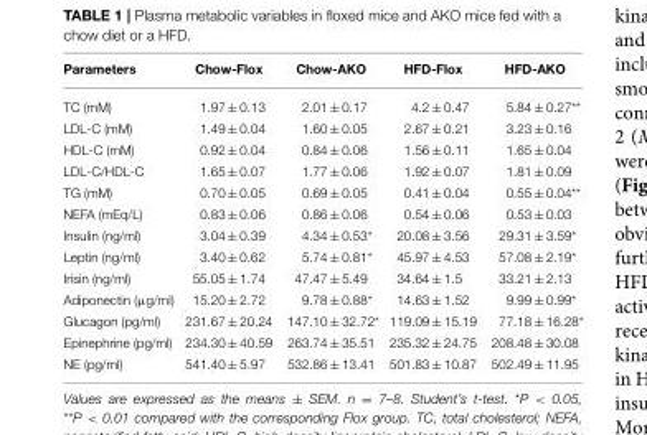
<table><thead><tr><td>Parameters</td><td>Chow-Flox</td><td>Chow-AKO</td><td>HFD-Flox</td><td>HFD-AKO</td></tr></thead><tbody><tr><td>TC (mM)</td><td>1.97 ± 0.13</td><td>2.01 ± 0.17</td><td>4.2 ± 0.47</td><td>5.84 ± 0.27**</td></tr><tr><td>LDL-C (mM)</td><td>1.49 ± 0.04</td><td>1.60 ± 0.05</td><td>2.67 ± 0.21</td><td>3.23 ± 0.16</td></tr><tr><td>HDL-C (mM)</td><td>0.92 ± 0.04</td><td>0.84 ± 0.06</td><td>1.56 ± 0.11</td><td>1.65 ± 0.04</td></tr><tr><td>LDL-C/HDL-C</td><td>1.65 ± 0.07</td><td>1.77 ± 0.06</td><td>1.92 ± 0.07</td><td>1.81 ± 0.09</td></tr><tr><td>TG (mM)</td><td>0.70 ± 0.05</td><td>0.69 ± 0.05</td><td>0.41 ± 0.04</td><td>0.55 ± 0.04**</td></tr><tr><td>NEFA (mEq/L)</td><td>0.83 ± 0.06</td><td>0.86 ± 0.06</td><td>0.54 ± 0.06</td><td>0.53 ± 0.03</td></tr><tr><td>Insulin (ng/ml)</td><td>3.04 ± 0.39</td><td>4.34 ± 0.53*</td><td>20.08 ± 3.56</td><td>29.31 ± 3.59*</td></tr><tr><td>Leptin (ng/ml)</td><td>3.40 ± 0.62</td><td>5.74 ± 0.81*</td><td>45.97 ± 4.53</td><td>57.08 ± 2.19*</td></tr><tr><td>Irisin (ng/ml)</td><td>55.05 ± 1.74</td><td>47.47 ± 5.49</td><td>34.64 ± 1.5</td><td>33.21 ± 2.13</td></tr><tr><td>Adiponectin (µg/ml)</td><td>15.20 ± 2.72</td><td>9.78 ± 0.88*</td><td>14.63 ± 1.52</td><td>9.99 ± 0.99*</td></tr><tr><td>Glucagon (pg/ml)</td><td>231.67 ± 20.24</td><td>147.10 ± 32.72*</td><td>119.09 ± 15.19</td><td>77.18 ± 16.28*</td></tr><tr><td>Epinephrine (pg/ml)</td><td>234.30 ± 40.59</td><td>263.74 ± 35.51</td><td>235.32 ± 24.75</td><td>208.48 ± 30.08</td></tr><tr><td>NE (pg/ml)</td><td>541.40 ± 5.97</td><td>532.86 ± 13.41</td><td>501.83 ± 10.87</td><td>502.49 ± 11.95</td></tr></tbody></table>